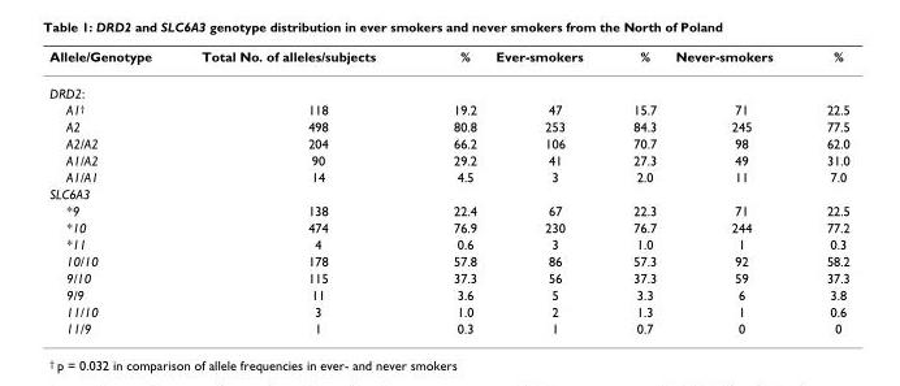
<table><thead><tr><td>Allele/Genotype</td><td>Total No. of alleles/subjects</td><td>%</td><td>Ever-smokers</td><td>%</td><td>Never-smokers</td><td>%</td></tr></thead><tbody><tr><td colspan="7">DRD2:</td></tr><tr><td>A1<sup>†</sup></td><td>118</td><td>19.2</td><td>47</td><td>15.7</td><td>71</td><td>22.5</td></tr><tr><td>A2</td><td>498</td><td>80.8</td><td>253</td><td>84.3</td><td>245</td><td>77.5</td></tr><tr><td>A2/A2</td><td>204</td><td>66.2</td><td>106</td><td>70.7</td><td>98</td><td>62.0</td></tr><tr><td>A1/A2</td><td>90</td><td>29.2</td><td>41</td><td>27.3</td><td>49</td><td>31.0</td></tr><tr><td>A1/A1</td><td>14</td><td>4.5</td><td>3</td><td>2.0</td><td>11</td><td>7.0</td></tr><tr><td colspan="7">SLC6A3</td></tr><tr><td>*9</td><td>138</td><td>22.4</td><td>67</td><td>22.3</td><td>71</td><td>22.5</td></tr><tr><td>*10</td><td>474</td><td>76.9</td><td>230</td><td>76.7</td><td>244</td><td>77.2</td></tr><tr><td>*11</td><td>4</td><td>0.6</td><td>3</td><td>1.0</td><td>1</td><td>0.3</td></tr><tr><td>10/10</td><td>178</td><td>57.8</td><td>86</td><td>57.3</td><td>92</td><td>58.2</td></tr><tr><td>9/10</td><td>115</td><td>37.3</td><td>56</td><td>37.3</td><td>59</td><td>37.3</td></tr><tr><td>9/9</td><td>11</td><td>3.6</td><td>5</td><td>3.3</td><td>6</td><td>3.8</td></tr><tr><td>11/10</td><td>3</td><td>1.0</td><td>2</td><td>1.3</td><td>1</td><td>0.6</td></tr><tr><td>11/9</td><td>1</td><td>0.3</td><td>1</td><td>0.7</td><td>0</td><td>0</td></tr></tbody></table>